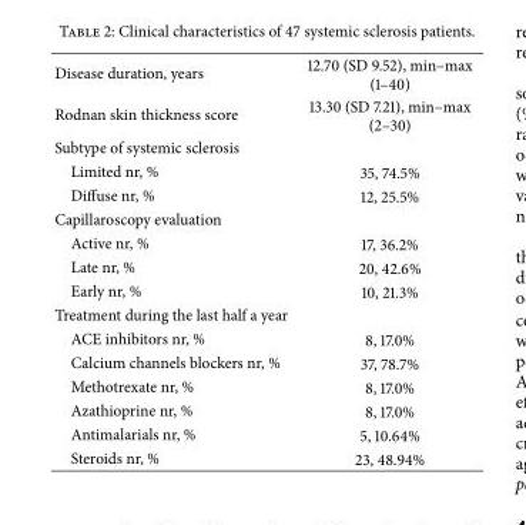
<table><tbody><tr><td>Disease duration, years</td><td>12.70 (SD 9.52), min–max (1–40)</td></tr><tr><td>Rodnan skin thickness score</td><td>13.30 (SD 7.21), min–max (2–30)</td></tr><tr><td colspan="2">Subtype of systemic sclerosis</td></tr><tr><td>Limited nr, %</td><td>35, 74.5%</td></tr><tr><td>Diffuse nr, %</td><td>12, 25.5%</td></tr><tr><td colspan="2">Capillaroscopy evaluation</td></tr><tr><td>Active nr, %</td><td>17, 36.2%</td></tr><tr><td>Late nr, %</td><td>20, 42.6%</td></tr><tr><td>Early nr, %</td><td>10, 21.3%</td></tr><tr><td colspan="2">Treatment during the last half a year</td></tr><tr><td>ACE inhibitors nr, %</td><td>8, 17.0%</td></tr><tr><td>Calcium channels blockers nr, %</td><td>37, 78.7%</td></tr><tr><td>Methotrexate nr, %</td><td>8, 17.0%</td></tr><tr><td>Azathioprine nr, %</td><td>8, 17.0%</td></tr><tr><td>Antimalarials nr, %</td><td>5, 10.64%</td></tr><tr><td>Steroids nr, %</td><td>23, 48.94%</td></tr></tbody></table>